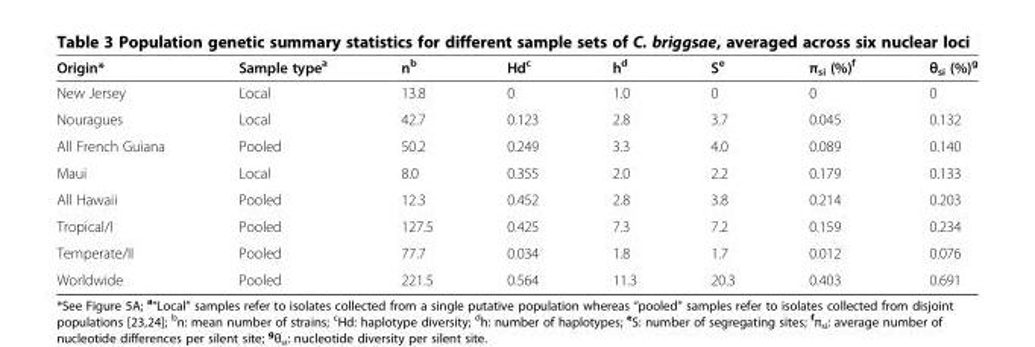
<table><thead><tr><td>Origin*</td><td>Sample type<sup>a</sup></td><td>n<sup>b</sup></td><td>Hd<sup>c</sup></td><td>h<sup>d</sup></td><td>S<sup>e</sup></td><td>π<sub>si</sub> (%)<sup>f</sup></td><td>θ<sub>si</sub> (%)<sup>g</sup></td></tr></thead><tbody><tr><td>New Jersey</td><td>Local</td><td>13.8</td><td>0</td><td>1.0</td><td>0</td><td>0</td><td>0</td></tr><tr><td>Nouragues</td><td>Local</td><td>42.7</td><td>0.123</td><td>2.8</td><td>3.7</td><td>0.045</td><td>0.132</td></tr><tr><td>All French Guiana</td><td>Pooled</td><td>50.2</td><td>0.249</td><td>3.3</td><td>4.0</td><td>0.089</td><td>0.140</td></tr><tr><td>Maui</td><td>Local</td><td>8.0</td><td>0.355</td><td>2.0</td><td>2.2</td><td>0.179</td><td>0.133</td></tr><tr><td>All Hawaii</td><td>Pooled</td><td>12.3</td><td>0.452</td><td>2.8</td><td>3.8</td><td>0.214</td><td>0.203</td></tr><tr><td>Tropical/I</td><td>Pooled</td><td>127.5</td><td>0.425</td><td>7.3</td><td>7.2</td><td>0.159</td><td>0.234</td></tr><tr><td>Temperate/II</td><td>Pooled</td><td>77.7</td><td>0.034</td><td>1.8</td><td>1.7</td><td>0.012</td><td>0.076</td></tr><tr><td>Worldwide</td><td>Pooled</td><td>221.5</td><td>0.564</td><td>11.3</td><td>20.3</td><td>0.403</td><td>0.691</td></tr></tbody></table>